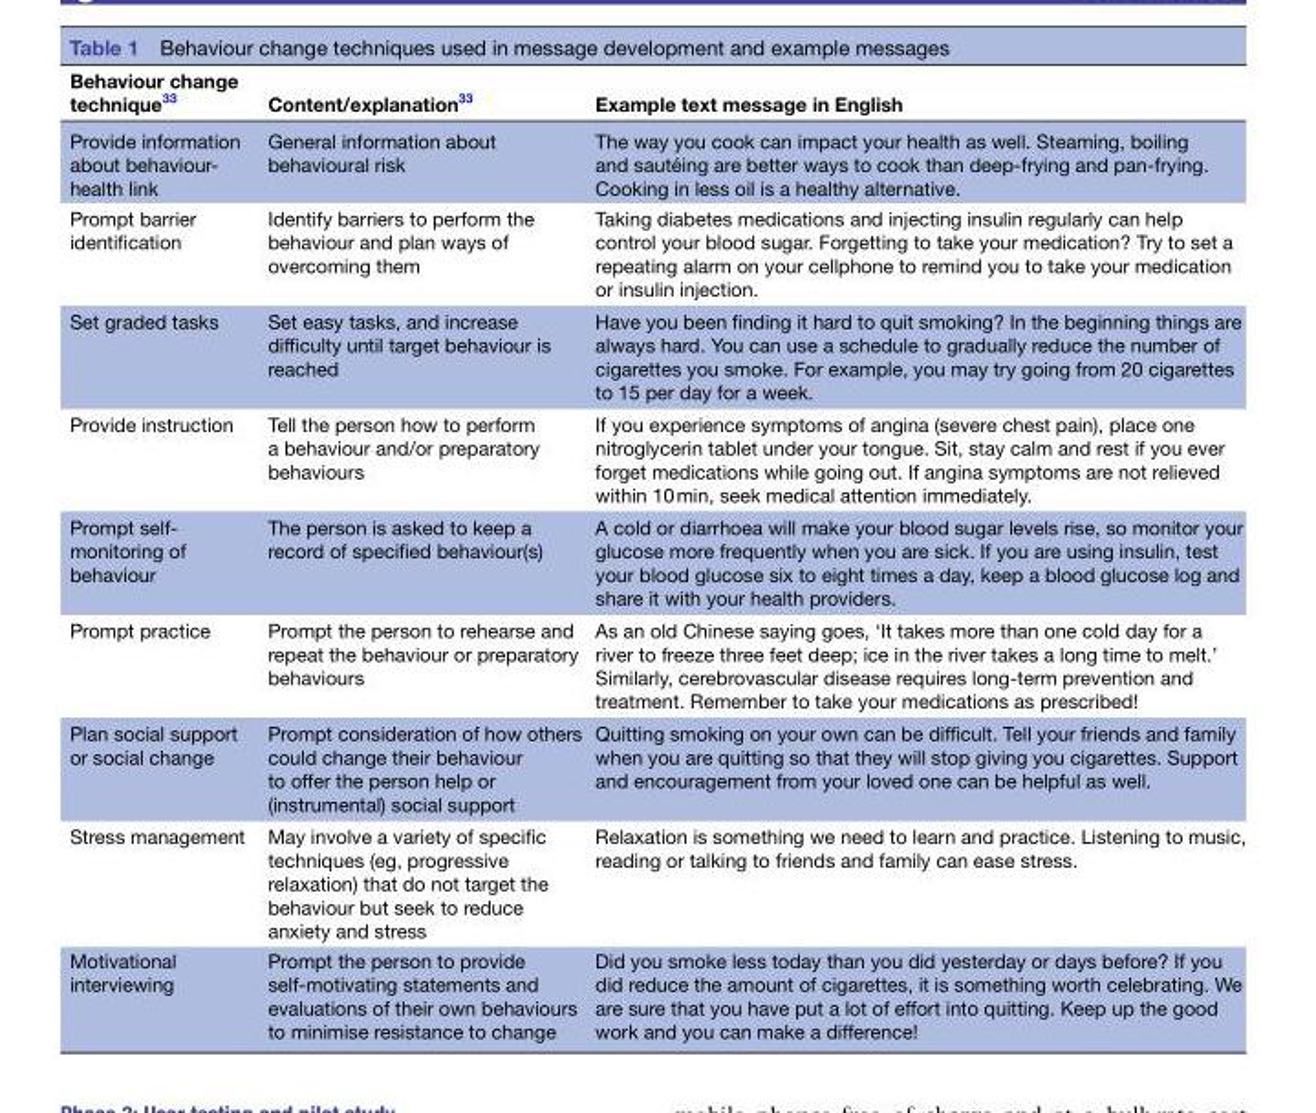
<table><thead><tr><td>Behaviour change technique<sup>33</sup></td><td>Content/explanation<sup>33</sup></td><td>Example text message in English</td></tr></thead><tbody><tr><td>Provide information about behaviour- health link</td><td>General information about behavioural risk</td><td>The way you cook can impact your health as well. Steaming, boiling and sautéing are better ways to cook than deep-frying and pan-frying. Cooking in less oil is a healthy alternative.</td></tr><tr><td>Prompt barrier identification</td><td>Identify barriers to perform the behaviour and plan ways of overcoming them</td><td>Taking diabetes medications and injecting insulin regularly can help control your blood sugar. Forgetting to take your medication? Try to set a repeating alarm on your cellphone to remind you to take your medication or insulin injection.</td></tr><tr><td>Set graded tasks</td><td>Set easy tasks, and increase difficulty until target behaviour is reached</td><td>Have you been finding it hard to quit smoking? In the beginning things are always hard. You can use a schedule to gradually reduce the number of cigarettes you smoke. For example, you may try going from 20 cigarettes to 15 per day for a week.</td></tr><tr><td>Provide instruction</td><td>Tell the person how to perform a behaviour and/or preparatory behaviours</td><td>If you experience symptoms of angina (severe chest pain), place one nitroglycerin tablet under your tongue. Sit, stay calm and rest if you ever forget medications while going out. If angina symptoms are not relieved within 10 min, seek medical attention immediately.</td></tr><tr><td>Prompt self- monitoring of behaviour</td><td>The person is asked to keep a record of specified behaviour(s)</td><td>A cold or diarrhoea will make your blood sugar levels rise, so monitor your glucose more frequently when you are sick. If you are using insulin, test your blood glucose six to eight times a day, keep a blood glucose log and share it with your health providers.</td></tr><tr><td>Prompt practice</td><td>Prompt the person to rehearse and repeat the behaviour or preparatory behaviours</td><td>As an old Chinese saying goes, ‘It takes more than one cold day for a river to freeze three feet deep; ice in the river takes a long time to melt.’ Similarly, cerebrovascular disease requires long-term prevention and treatment. Remember to take your medications as prescribed!</td></tr><tr><td>Plan social support or social change</td><td>Prompt consideration of how others could change their behaviour to offer the person help or (instrumental) social support</td><td>Quitting smoking on your own can be difficult. Tell your friends and family when you are quitting so that they will stop giving you cigarettes. Support and encouragement from your loved one can be helpful as well.</td></tr><tr><td>Stress management</td><td>May involve a variety of specific techniques (eg, progressive relaxation) that do not target the behaviour but seek to reduce anxiety and stress</td><td>Relaxation is something we need to learn and practice. Listening to music, reading or talking to friends and family can ease stress.</td></tr><tr><td>Motivational interviewing</td><td>Prompt the person to provide self-motivating statements and evaluations of their own behaviours to minimise resistance to change</td><td>Did you smoke less today than you did yesterday or days before? If you did reduce the amount of cigarettes, it is something worth celebrating. We are sure that you have put a lot of effort into quitting. Keep up the good work and you can make a difference!</td></tr></tbody></table>